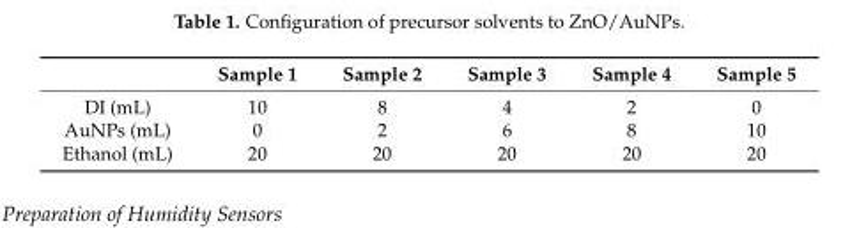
<table><thead><tr><td></td><td>Sample 1</td><td>Sample 2</td><td>Sample 3</td><td>Sample 4</td><td>Sample 5</td></tr></thead><tbody><tr><td>DI (mL)</td><td>10</td><td>8</td><td>4</td><td>2</td><td>0</td></tr><tr><td>AuNPs (mL)</td><td>0</td><td>2</td><td>6</td><td>8</td><td>10</td></tr><tr><td>Ethanol (mL)</td><td>20</td><td>20</td><td>20</td><td>20</td><td>20</td></tr></tbody></table>